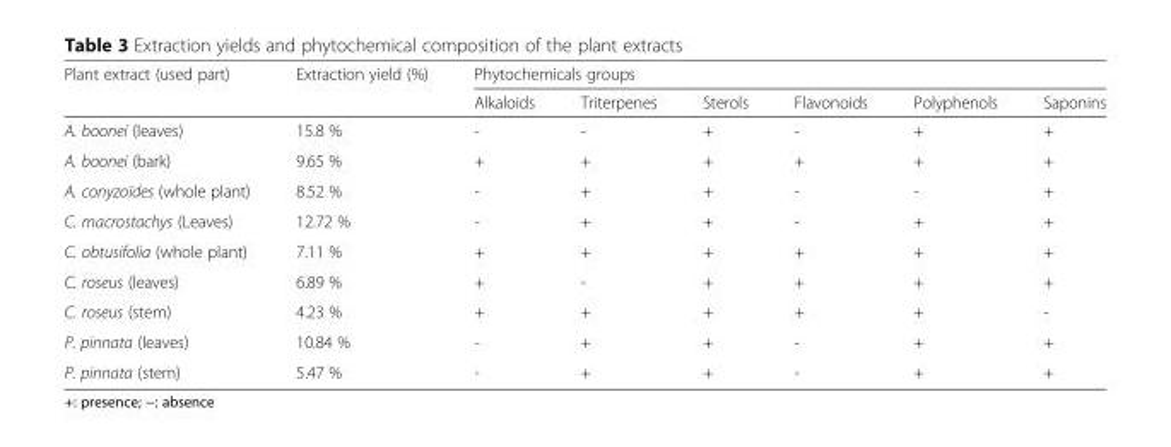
<table><thead><tr><td rowspan="2">Plant extract (used part)</td><td rowspan="2">Extraction yield (%)</td><td colspan="6">Phytochemicals groups</td></tr><tr><td>Alkaloids</td><td>Triterpenes</td><td>Sterols</td><td>Flavonoids</td><td>Polyphenols</td><td>Saponins</td></tr></thead><tbody><tr><td>A. boonei (leaves)</td><td>15.8 %</td><td>-</td><td>-</td><td>+</td><td>-</td><td>+</td><td>+</td></tr><tr><td>A. boonei (bark)</td><td>9.65 %</td><td>+</td><td>+</td><td>+</td><td>+</td><td>+</td><td>+</td></tr><tr><td>A. conyzoïdes (whole plant)</td><td>8.52 %</td><td>-</td><td>+</td><td>+</td><td>-</td><td>-</td><td>+</td></tr><tr><td>C. macrostachys (Leaves)</td><td>12.72 %</td><td>-</td><td>+</td><td>+</td><td>-</td><td>+</td><td>+</td></tr><tr><td>C. obtusifolia (whole plant)</td><td>7.11 %</td><td>+</td><td>+</td><td>+</td><td>+</td><td>+</td><td>+</td></tr><tr><td>C. roseus (leaves)</td><td>6.89 %</td><td>+</td><td>-</td><td>+</td><td>+</td><td>+</td><td>+</td></tr><tr><td>C. roseus (stem)</td><td>4.23 %</td><td>+</td><td>+</td><td>+</td><td>+</td><td>+</td><td>-</td></tr><tr><td>P. pinnata (leaves)</td><td>10.84 %</td><td>-</td><td>+</td><td>+</td><td>-</td><td>+</td><td>+</td></tr><tr><td>P. pinnata (stem)</td><td>5.47 %</td><td>-</td><td>+</td><td>+</td><td>-</td><td>+</td><td>+</td></tr></tbody></table>